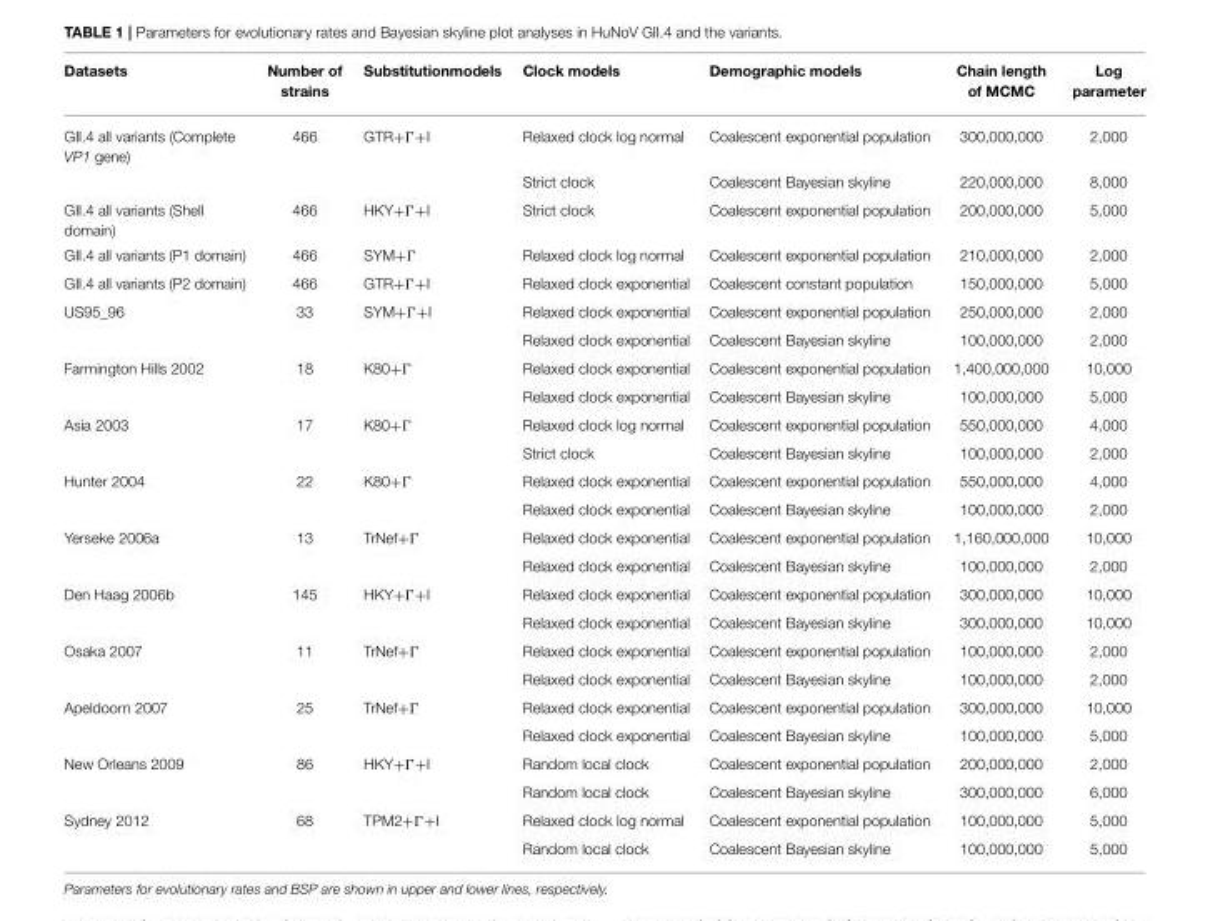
<table><thead><tr><td>Datasets</td><td>Number of strains</td><td>Substitutionmodels</td><td>Clock models</td><td>Demographic models</td><td>Chain length of MCMC</td><td>Log parameter</td></tr></thead><tbody><tr><td rowspan="2">GII.4 all variants (Complete VP1 gene)</td><td>466</td><td>GTR+Ŵ+I</td><td>Relaxed clock log normal</td><td>Coalescent exponential population</td><td>300,000,000</td><td>2,000</td></tr><tr><td></td><td></td><td>Strict clock</td><td>Coalescent Bayesian skyline</td><td>220,000,000</td><td>8,000</td></tr><tr><td>GII.4 all variants (Shell domain)</td><td>466</td><td>HKY+Ŵ+I</td><td>Strict clock</td><td>Coalescent exponential population</td><td>200,000,000</td><td>5,000</td></tr><tr><td>GII.4 all variants (P1 domain)</td><td>466</td><td>SYM+Ŵ</td><td>Relaxed clock log normal</td><td>Coalescent exponential population</td><td>210,000,000</td><td>2,000</td></tr><tr><td>GII.4 all variants (P2 domain)</td><td>466</td><td>GTR+Ŵ+I</td><td>Relaxed clock exponential</td><td>Coalescent constant population</td><td>150,000,000</td><td>5,000</td></tr><tr><td rowspan="2">US95_96</td><td>33</td><td>SYM+Ŵ+I</td><td>Relaxed clock exponential</td><td>Coalescent exponential population</td><td>250,000,000</td><td>2,000</td></tr><tr><td></td><td></td><td>Relaxed clock exponential</td><td>Coalescent Bayesian skyline</td><td>100,000,000</td><td>2,000</td></tr><tr><td rowspan="2">Farmington Hills 2002</td><td>18</td><td>K80+Ŵ</td><td>Relaxed clock exponential</td><td>Coalescent exponential population</td><td>1,400,000,000</td><td>10,000</td></tr><tr><td></td><td></td><td>Relaxed clock exponential</td><td>Coalescent Bayesian skyline</td><td>100,000,000</td><td>5,000</td></tr><tr><td rowspan="2">Asia 2003</td><td>17</td><td>K80+Ŵ</td><td>Relaxed clock log normal</td><td>Coalescent exponential population</td><td>550,000,000</td><td>4,000</td></tr><tr><td></td><td></td><td>Strict clock</td><td>Coalescent Bayesian skyline</td><td>100,000,000</td><td>2,000</td></tr><tr><td rowspan="2">Hunter 2004</td><td>22</td><td>K80+Ŵ</td><td>Relaxed clock exponential</td><td>Coalescent exponential population</td><td>550,000,000</td><td>4,000</td></tr><tr><td></td><td></td><td>Relaxed clock exponential</td><td>Coalescent Bayesian skyline</td><td>100,000,000</td><td>2,000</td></tr><tr><td rowspan="2">Yerseke 2006a</td><td>13</td><td>TrNef+Ŵ</td><td>Relaxed clock exponential</td><td>Coalescent exponential population</td><td>1,160,000,000</td><td>10,000</td></tr><tr><td></td><td></td><td>Relaxed clock exponential</td><td>Coalescent Bayesian skyline</td><td>100,000,000</td><td>2,000</td></tr><tr><td rowspan="2">Den Haag 2006b</td><td>145</td><td>HKY+Ŵ+I</td><td>Relaxed clock exponential</td><td>Coalescent exponential population</td><td>300,000,000</td><td>10,000</td></tr><tr><td></td><td></td><td>Relaxed clock exponential</td><td>Coalescent Bayesian skyline</td><td>300,000,000</td><td>10,000</td></tr><tr><td rowspan="2">Osaka 2007</td><td>11</td><td>TrNef+Ŵ</td><td>Relaxed clock exponential</td><td>Coalescent exponential population</td><td>100,000,000</td><td>2,000</td></tr><tr><td></td><td></td><td>Relaxed clock exponential</td><td>Coalescent Bayesian skyline</td><td>100,000,000</td><td>2,000</td></tr><tr><td rowspan="2">Apeldoorn 2007</td><td>25</td><td>TrNef+Ŵ</td><td>Relaxed clock exponential</td><td>Coalescent exponential population</td><td>300,000,000</td><td>10,000</td></tr><tr><td></td><td></td><td>Relaxed clock exponential</td><td>Coalescent Bayesian skyline</td><td>100,000,000</td><td>5,000</td></tr><tr><td rowspan="2">New Orleans 2009</td><td>86</td><td>HKY+Ŵ+I</td><td>Random local clock</td><td>Coalescent exponential population</td><td>200,000,000</td><td>2,000</td></tr><tr><td></td><td></td><td>Random local clock</td><td>Coalescent Bayesian skyline</td><td>300,000,000</td><td>6,000</td></tr><tr><td rowspan="2">Sydney 2012</td><td>68</td><td>TPM2+Ŵ+I</td><td>Relaxed clock log normal</td><td>Coalescent exponential population</td><td>100,000,000</td><td>5,000</td></tr><tr><td></td><td></td><td>Random local clock</td><td>Coalescent Bayesian skyline</td><td>100,000,000</td><td>5,000</td></tr></tbody></table>